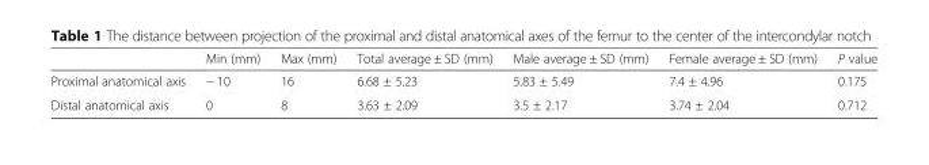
<table><thead><tr><td></td><td>Min (mm)</td><td>Max (mm)</td><td>Total average ± SD (mm)</td><td>Male average ± SD (mm)</td><td>Female average ± SD (mm)</td><td>P value</td></tr></thead><tbody><tr><td>Proximal anatomical axis</td><td>− 10</td><td>16</td><td>6.68 ± 5.23</td><td>5.83 ± 5.49</td><td>7.4 ± 4.96</td><td>0.175</td></tr><tr><td>Distal anatomical axis</td><td>0</td><td>8</td><td>3.63 ± 2.09</td><td>3.5 ± 2.17</td><td>3.74 ± 2.04</td><td>0.712</td></tr></tbody></table>